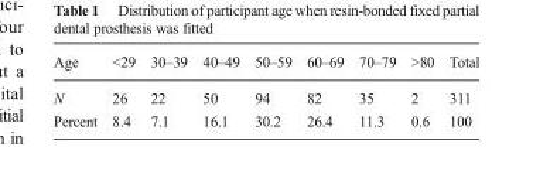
<table><thead><tr><td>Age</td><td>&lt;29</td><td>30–39</td><td>40–49</td><td>50–59</td><td>60–69</td><td>70–79</td><td>&gt;80</td><td>Total</td></tr></thead><tbody><tr><td>N</td><td>26</td><td>22</td><td>50</td><td>94</td><td>82</td><td>35</td><td>2</td><td>311</td></tr><tr><td>Percent</td><td>8.4</td><td>7.1</td><td>16.1</td><td>30.2</td><td>26.4</td><td>11.3</td><td>0.6</td><td>100</td></tr></tbody></table>